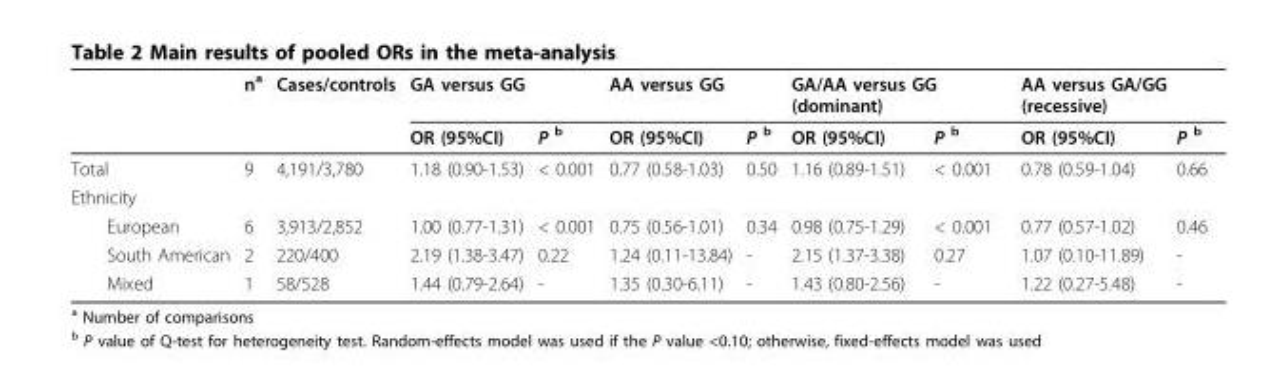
<table><thead><tr><td rowspan="2"></td><td rowspan="2">n<sup>a</sup></td><td rowspan="2">Cases/controls</td><td colspan="2">GA versus GG</td><td colspan="2">AA versus GG</td><td colspan="2">GA/AA versus GG (dominant)</td><td colspan="2">AA versus GA/GG (recessive)</td></tr><tr><td>OR (95%CI)</td><td>P <sup>b</sup></td><td>OR (95%CI)</td><td>P <sup>b</sup></td><td>OR (95%CI)</td><td>P <sup>b</sup></td><td>OR (95%CI)</td><td>P <sup>b</sup></td></tr></thead><tbody><tr><td>Total</td><td>9</td><td>4,191/3,780</td><td>1.18 (0.90-1.53)</td><td>&lt; 0.001</td><td>0.77 (0.58-1.03)</td><td>0.50</td><td>1.16 (0.89-1.51)</td><td>&lt; 0.001</td><td>0.78 (0.59-1.04)</td><td>0.66</td></tr><tr><td colspan="11">Ethnicity</td></tr><tr><td>European</td><td>6</td><td>3,913/2,852</td><td>1.00 (0.77-1.31)</td><td>&lt; 0.001</td><td>0.75 (0.56-1.01)</td><td>0.34</td><td>0.98 (0.75-1.29)</td><td>&lt; 0.001</td><td>0.77 (0.57-1.02)</td><td>0.46</td></tr><tr><td>South American</td><td>2</td><td>220/400</td><td>2.19 (1.38-3.47)</td><td>0.22</td><td>1.24 (0.11-13.84)</td><td>-</td><td>2.15 (1.37-3.38)</td><td>0.27</td><td>1.07 (0.10-11.89)</td><td>-</td></tr><tr><td>Mixed</td><td>1</td><td>58/528</td><td>1.44 (0.79-2.64)</td><td>-</td><td>1.35 (0.30-6.11)</td><td>-</td><td>1.43 (0.80-2.56)</td><td>-</td><td>1.22 (0.27-5.48)</td><td>-</td></tr></tbody></table>